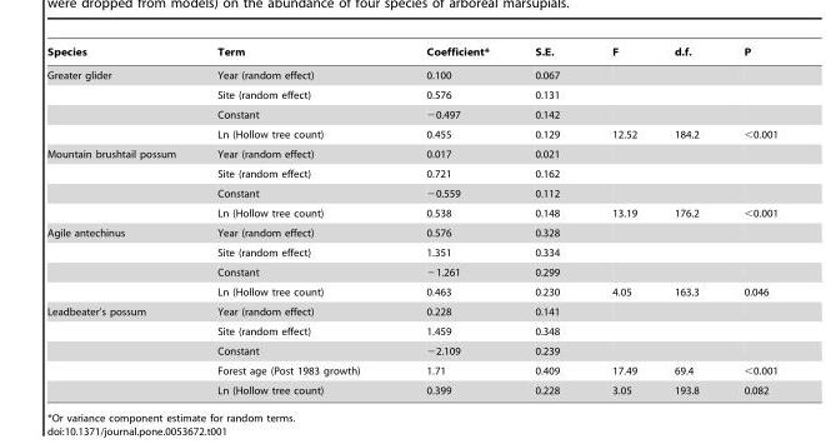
<table><thead><tr><td>Species</td><td>Term</td><td>Coefficient*</td><td>S.E.</td><td>F</td><td>d.f.</td><td>P</td></tr></thead><tbody><tr><td rowspan="4">Greater glider</td><td>Year (random effect)</td><td>0.100</td><td>0.067</td><td></td><td></td><td></td></tr><tr><td>Site (random effect)</td><td>0.576</td><td>0.131</td><td></td><td></td><td></td></tr><tr><td>Constant</td><td>−0.497</td><td>0.142</td><td></td><td></td><td></td></tr><tr><td>Ln (Hollow tree count)</td><td>0.455</td><td>0.129</td><td>12.52</td><td>184.2</td><td>&lt;0.001</td></tr><tr><td rowspan="4">Mountain brushtail possum</td><td>Year (random effect)</td><td>0.017</td><td>0.021</td><td></td><td></td><td></td></tr><tr><td>Site (random effect)</td><td>0.721</td><td>0.162</td><td></td><td></td><td></td></tr><tr><td>Constant</td><td>−0.559</td><td>0.112</td><td></td><td></td><td></td></tr><tr><td>Ln (Hollow tree count)</td><td>0.538</td><td>0.148</td><td>13.19</td><td>176.2</td><td>&lt;0.001</td></tr><tr><td rowspan="4">Agile antechinus</td><td>Year (random effect)</td><td>0.576</td><td>0.328</td><td></td><td></td><td></td></tr><tr><td>Site (random effect)</td><td>1.351</td><td>0.334</td><td></td><td></td><td></td></tr><tr><td>Constant</td><td>−1.261</td><td>0.299</td><td></td><td></td><td></td></tr><tr><td>Ln (Hollow tree count)</td><td>0.463</td><td>0.230</td><td>4.05</td><td>163.3</td><td>0.046</td></tr><tr><td rowspan="5">Leadbeater’s possum</td><td>Year (random effect)</td><td>0.228</td><td>0.141</td><td></td><td></td><td></td></tr><tr><td>Site (random effect)</td><td>1.459</td><td>0.348</td><td></td><td></td><td></td></tr><tr><td>Constant</td><td>−2.109</td><td>0.239</td><td></td><td></td><td></td></tr><tr><td>Forest age (Post 1983 growth)</td><td>1.71</td><td>0.409</td><td>17.49</td><td>69.4</td><td>&lt;0.001</td></tr><tr><td>Ln (Hollow tree count)</td><td>0.399</td><td>0.228</td><td>3.05</td><td>193.8</td><td>0.082</td></tr></tbody></table>